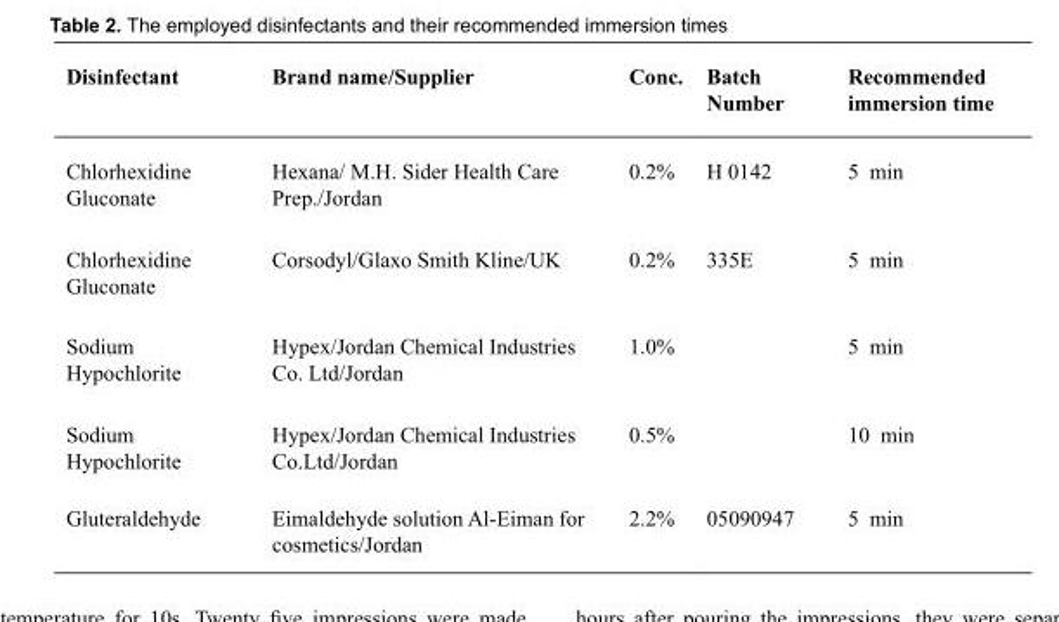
<table><thead><tr><td>Disinfectant</td><td>Brand name/Supplier</td><td>Conc.</td><td>Batch Number</td><td>Recommended immersion time</td></tr></thead><tbody><tr><td>Chlorhexidine Gluconate</td><td>Hexana/ M.H. Sider Health Care Prep./Jordan</td><td>0.2%</td><td>H 0142</td><td>5 min</td></tr><tr><td>Chlorhexidine Gluconate</td><td>Corsodyl/Glaxo Smith Kline/UK</td><td>0.2%</td><td>335E</td><td>5 min</td></tr><tr><td>Sodium Hypochlorite</td><td>Hypex/Jordan Chemical Industries Co. Ltd/Jordan</td><td>1.0%</td><td></td><td>5 min</td></tr><tr><td>Sodium Hypochlorite</td><td>Hypex/Jordan Chemical Industries Co.Ltd/Jordan</td><td>0.5%</td><td></td><td>10 min</td></tr><tr><td>Gluteraldehyde</td><td>Eimaldehyde solution Al-Eiman for cosmetics/Jordan</td><td>2.2%</td><td>05090947</td><td>5 min</td></tr></tbody></table>